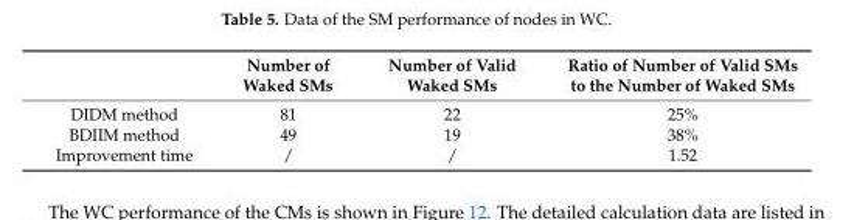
<table><thead><tr><td></td><td>Number of Waked SMs</td><td>Number of Valid Waked SMs</td><td>Ratio of Number of Valid SMs to the Number of Waked SMs</td></tr></thead><tbody><tr><td>DIDM method</td><td>81</td><td>22</td><td>25%</td></tr><tr><td>BDIIM method</td><td>49</td><td>19</td><td>38%</td></tr><tr><td>Improvement time</td><td>/</td><td>/</td><td>1.52</td></tr></tbody></table>